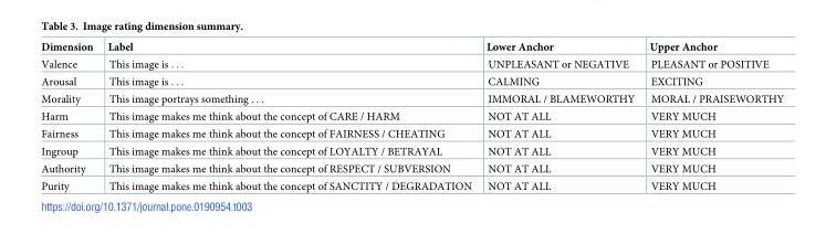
<table><thead><tr><td>Dimension</td><td>Label</td><td>Lower Anchor</td><td>Upper Anchor</td></tr></thead><tbody><tr><td>Valence</td><td>This image is . . .</td><td>UNPLEASANT or NEGATIVE</td><td>PLEASANT or POSITIVE</td></tr><tr><td>Arousal</td><td>This image is . . .</td><td>CALMING</td><td>EXCITING</td></tr><tr><td>Morality</td><td>This image portrays something . . .</td><td>IMMORAL / BLAMEWORTHY</td><td>MORAL / PRAISEWORTHY</td></tr><tr><td>Harm</td><td>This image makes me think about the concept of CARE / HARM</td><td>NOT AT ALL</td><td>VERY MUCH</td></tr><tr><td>Fairness</td><td>This image makes me think about the concept of FAIRNESS / CHEATING</td><td>NOT AT ALL</td><td>VERY MUCH</td></tr><tr><td>Ingroup</td><td>This image makes me think about the concept of LOYALTY / BETRAYAL</td><td>NOT AT ALL</td><td>VERY MUCH</td></tr><tr><td>Authority</td><td>This image makes me think about the concept of RESPECT / SUBVERSION</td><td>NOT AT ALL</td><td>VERY MUCH</td></tr><tr><td>Purity</td><td>This image makes me think about the concept of SANCTITY / DEGRADATION</td><td>NOT AT ALL</td><td>VERY MUCH</td></tr></tbody></table>